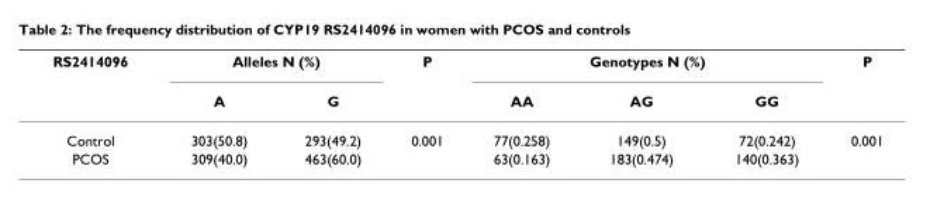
<table><thead><tr><td rowspan="2">RS2414096</td><td colspan="2">Alleles N (%)</td><td rowspan="2">P</td><td colspan="3">Genotypes N (%)</td><td rowspan="2">P</td></tr><tr><td>A</td><td>G</td><td>AA</td><td>AG</td><td>GG</td></tr></thead><tbody><tr><td>Control</td><td>303(50.8)</td><td>293(49.2)</td><td>0.001</td><td>77(0.258)</td><td>149(0.5)</td><td>72(0.242)</td><td>0.001</td></tr><tr><td>PCOS</td><td>309(40.0)</td><td>463(60.0)</td><td></td><td>63(0.163)</td><td>183(0.474)</td><td>140(0.363)</td><td></td></tr></tbody></table>